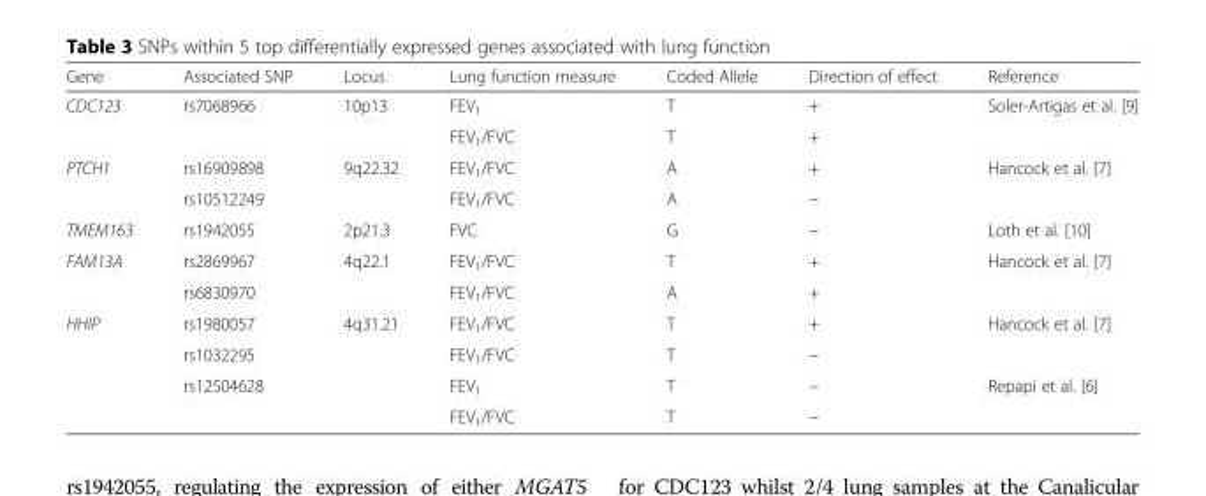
<table><thead><tr><td>Gene</td><td>Associated SNP</td><td>Locus</td><td>Lung function measure</td><td>Coded Allele</td><td>Direction of effect</td><td>Reference</td></tr></thead><tbody><tr><td rowspan="2">CDC123</td><td rowspan="2">rs7068966</td><td rowspan="2">10p13</td><td>FEV<sub>1</sub></td><td>T</td><td>+</td><td rowspan="2">Soler-Artigas et al. [9]</td></tr><tr><td>FEV<sub>1</sub>/FVC</td><td>T</td><td>+</td></tr><tr><td rowspan="2">PTCH1</td><td>rs16909898</td><td rowspan="2">9q22.32</td><td>FEV<sub>1</sub>/FVC</td><td>A</td><td>+</td><td rowspan="2">Hancock et al. [7]</td></tr><tr><td>rs10512249</td><td>FEV<sub>1</sub>/FVC</td><td>A</td><td>−</td></tr><tr><td>TMEM163</td><td>rs1942055</td><td>2p21.3</td><td>FVC</td><td>G</td><td>−</td><td>Loth et al. [10]</td></tr><tr><td rowspan="2">FAM13A</td><td>rs2869967</td><td rowspan="2">4q22.1</td><td>FEV<sub>1</sub>/FVC</td><td>T</td><td>+</td><td rowspan="2">Hancock et al. [7]</td></tr><tr><td>rs6830970</td><td>FEV<sub>1</sub>/FVC</td><td>A</td><td>+</td></tr><tr><td rowspan="4">HHIP</td><td>rs1980057</td><td rowspan="4">4q31.21</td><td>FEV<sub>1</sub>/FVC</td><td>T</td><td>+</td><td rowspan="2">Hancock et al. [7]</td></tr><tr><td>rs1032295</td><td>FEV<sub>1</sub>/FVC</td><td>T</td><td>−</td></tr><tr><td rowspan="2">rs12504628</td><td>FEV<sub>1</sub></td><td>T</td><td>−</td><td rowspan="2">Repapi et al. [6]</td></tr><tr><td>FEV<sub>1</sub>/FVC</td><td>T</td><td>−</td></tr></tbody></table>